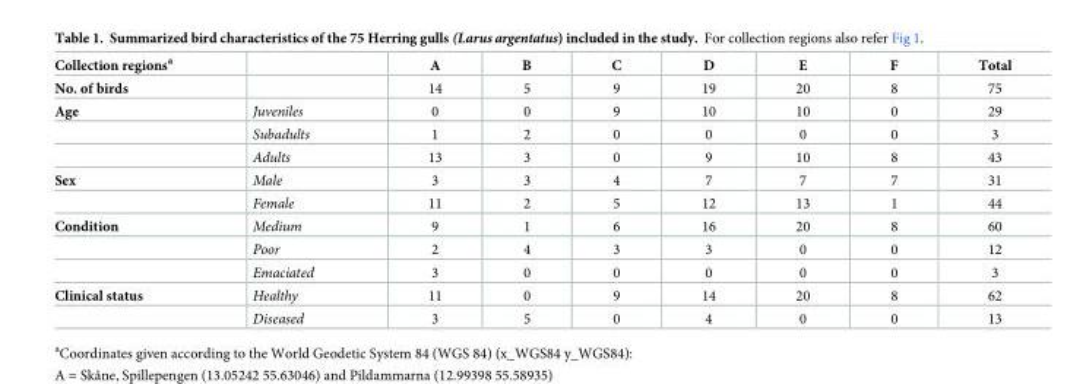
<table><thead><tr><td>Collection regions<sup>a</sup></td><td></td><td>A</td><td>B</td><td>C</td><td>D</td><td>E</td><td>F</td><td>Total</td></tr></thead><tbody><tr><td>No. of birds</td><td></td><td>14</td><td>5</td><td>9</td><td>19</td><td>20</td><td>8</td><td>75</td></tr><tr><td rowspan="3">Age</td><td>Juveniles</td><td>0</td><td>0</td><td>9</td><td>10</td><td>10</td><td>0</td><td>29</td></tr><tr><td>Subadults</td><td>1</td><td>2</td><td>0</td><td>0</td><td>0</td><td>0</td><td>3</td></tr><tr><td>Adults</td><td>13</td><td>3</td><td>0</td><td>9</td><td>10</td><td>8</td><td>43</td></tr><tr><td rowspan="2">Sex</td><td>Male</td><td>3</td><td>3</td><td>4</td><td>7</td><td>7</td><td>7</td><td>31</td></tr><tr><td>Female</td><td>11</td><td>2</td><td>5</td><td>12</td><td>13</td><td>1</td><td>44</td></tr><tr><td rowspan="3">Condition</td><td>Medium</td><td>9</td><td>1</td><td>6</td><td>16</td><td>20</td><td>8</td><td>60</td></tr><tr><td>Poor</td><td>2</td><td>4</td><td>3</td><td>3</td><td>0</td><td>0</td><td>12</td></tr><tr><td>Emaciated</td><td>3</td><td>0</td><td>0</td><td>0</td><td>0</td><td>0</td><td>3</td></tr><tr><td rowspan="2">Clinical status</td><td>Healthy</td><td>11</td><td>0</td><td>9</td><td>14</td><td>20</td><td>8</td><td>62</td></tr><tr><td>Diseased</td><td>3</td><td>5</td><td>0</td><td>4</td><td>0</td><td>0</td><td>13</td></tr></tbody></table>